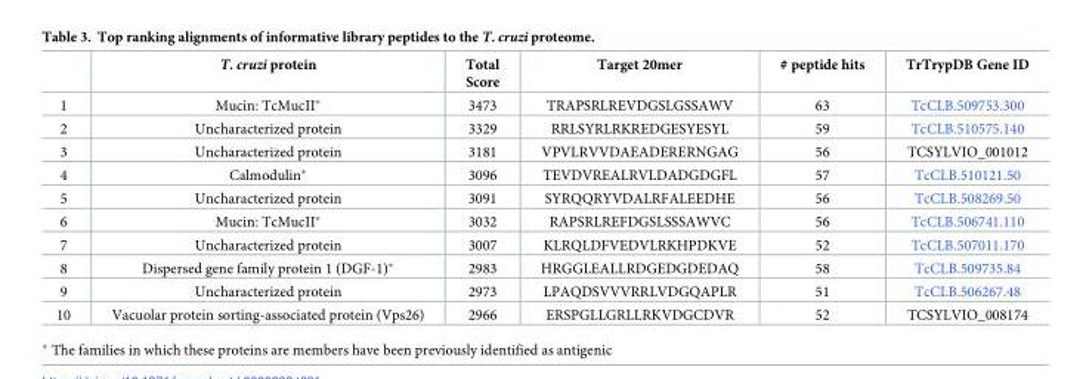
<table><thead><tr><td></td><td>T. cruzi protein</td><td>Total Score</td><td>Target 20mer</td><td># peptide hits</td><td>TrTrypDB Gene ID</td></tr></thead><tbody><tr><td>1</td><td>Mucin: TcMucII*</td><td>3473</td><td>TRAPSRLREVDGSLGSSAWV</td><td>63</td><td>TcCLB.509753.300</td></tr><tr><td>2</td><td>Uncharacterized protein</td><td>3329</td><td>RRLSYRLRKREDGESYESYL</td><td>59</td><td>TcCLB.510575.140</td></tr><tr><td>3</td><td>Uncharacterized protein</td><td>3181</td><td>VPVLRVVDAEADERERNGAG</td><td>56</td><td>TCSYLVIO_001012</td></tr><tr><td>4</td><td>Calmodulin*</td><td>3096</td><td>TEVDVREALRVLDADGDGFL</td><td>57</td><td>TcCLB.510121.50</td></tr><tr><td>5</td><td>Uncharacterized protein</td><td>3091</td><td>SYRQQRYVDALRFALEEDHE</td><td>56</td><td>TcCLB.508269.50</td></tr><tr><td>6</td><td>Mucin: TcMucII*</td><td>3032</td><td>RAPSRLREFDGSLSSSAWVC</td><td>56</td><td>TcCLB.506741.110</td></tr><tr><td>7</td><td>Uncharacterized protein</td><td>3007</td><td>KLRQLDFVEDVLRKHPDKVE</td><td>52</td><td>TcCLB.507011.170</td></tr><tr><td>8</td><td>Dispersed gene family protein 1 (DGF-1)*</td><td>2983</td><td>HRGGLEALLRDGEDGDEDAQ</td><td>58</td><td>TcCLB.509735.84</td></tr><tr><td>9</td><td>Uncharacterized protein</td><td>2973</td><td>LPAQDSVVVRRLVDGQAPLR</td><td>51</td><td>TcCLB.506267.48</td></tr><tr><td>10</td><td>Vacuolar protein sorting-associated protein (Vps26)</td><td>2966</td><td>ERSPGLLGRLLRKVDGCDVR</td><td>52</td><td>TCSYLVIO_008174</td></tr></tbody></table>